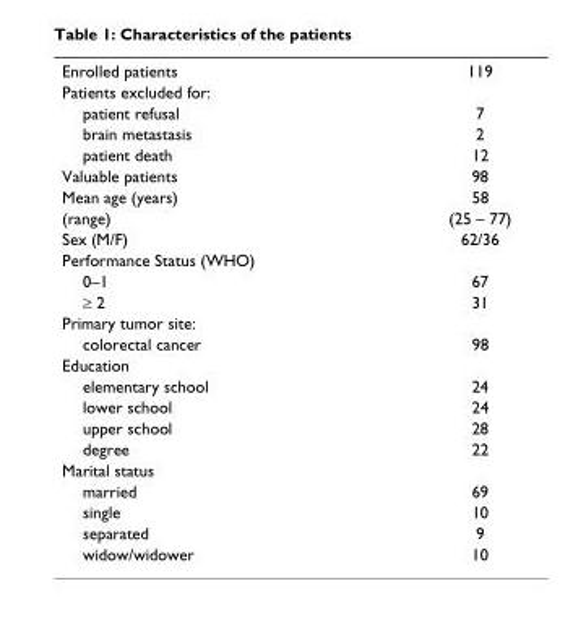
<table><tbody><tr><td>Enrolled patients</td><td>119</td></tr><tr><td colspan="2">Patients excluded for:</td></tr><tr><td>patient refusal</td><td>7</td></tr><tr><td>brain metastasis</td><td>2</td></tr><tr><td>patient death</td><td>12</td></tr><tr><td>Valuable patients</td><td>98</td></tr><tr><td>Mean age (years)</td><td>58</td></tr><tr><td>(range)</td><td>(25 – 77)</td></tr><tr><td>Sex (M/F)</td><td>62/36</td></tr><tr><td colspan="2">Performance Status (WHO)</td></tr><tr><td>0–1</td><td>67</td></tr><tr><td>≥ 2</td><td>31</td></tr><tr><td colspan="2">Primary tumor site:</td></tr><tr><td>colorectal cancer</td><td>98</td></tr><tr><td colspan="2">Education</td></tr><tr><td>elementary school</td><td>24</td></tr><tr><td>lower school</td><td>24</td></tr><tr><td>upper school</td><td>28</td></tr><tr><td>degree</td><td>22</td></tr><tr><td colspan="2">Marital status</td></tr><tr><td>married</td><td>69</td></tr><tr><td>single</td><td>10</td></tr><tr><td>separated</td><td>9</td></tr><tr><td>widow/widower</td><td>10</td></tr></tbody></table>